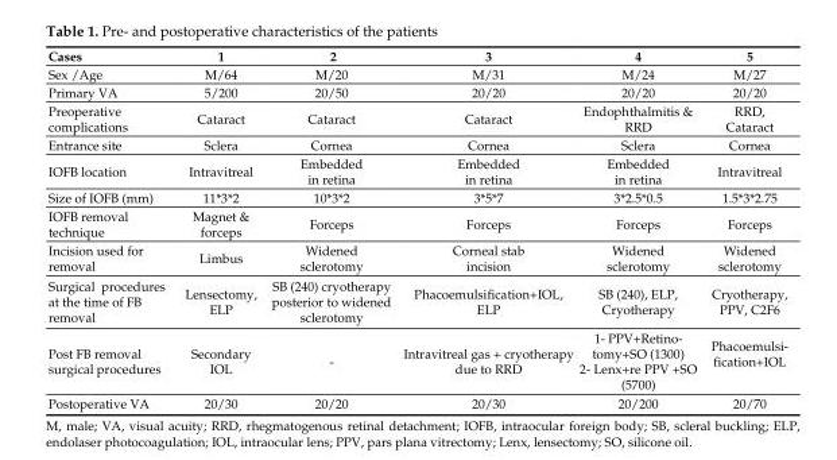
<table><thead><tr><td>Cases</td><td>1</td><td>2</td><td>3</td><td>4</td><td>5</td></tr></thead><tbody><tr><td>Sex /Age</td><td>M/64</td><td>M/20</td><td>M/31</td><td>M/24</td><td>M/27</td></tr><tr><td>Primary VA</td><td>5/200</td><td>20/50</td><td>20/20</td><td>20/20</td><td>20/20</td></tr><tr><td>Preoperative complications</td><td>Cataract</td><td>Cataract</td><td>Cataract</td><td>Endophthalmitis &amp; RRD</td><td>RRD, Cataract</td></tr><tr><td>Entrance site</td><td>Sclera</td><td>Cornea</td><td>Cornea</td><td>Sclera</td><td>Cornea</td></tr><tr><td>IOFB location</td><td>Intravitreal</td><td>Embedded in retina</td><td>Embedded in retina</td><td>Embedded in retina</td><td>Intravitreal</td></tr><tr><td>Size of IOFB (mm)</td><td>11*3*2</td><td>10*3*2</td><td>3*5*7</td><td>3*2.5*0.5</td><td>1.5*3*2.75</td></tr><tr><td>IOFB removal technique</td><td>Magnet &amp; forceps</td><td>Forceps</td><td>Forceps</td><td>Forceps</td><td>Forceps</td></tr><tr><td>Incision used for removal</td><td>Limbus</td><td>Widened sclerotomy</td><td>Corneal stab incision</td><td>Widened sclerotomy</td><td>Widened sclerotomy</td></tr><tr><td>Surgical procedures at the time of FB removal</td><td>Lensectomy, ELP</td><td>SB (240) cryotherapy posterior to widened sclerotomy</td><td>Phacoemulsification+IOL, ELP</td><td>SB (240), ELP, Cryotherapy</td><td>Cryotherapy, PPV, C2F6</td></tr><tr><td>Post FB removal surgical procedures</td><td>Secondary IOL</td><td>-</td><td>Intravitreal gas + cryotherapy due to RRD</td><td>1- PPV+Retino- tomy+SO (1300) 2- Lenx+re PPV +SO (5700)</td><td>Phacoemulsi- fication+IOL</td></tr><tr><td>Postoperative VA</td><td>20/30</td><td>20/20</td><td>20/30</td><td>20/200</td><td>20/70</td></tr></tbody></table>